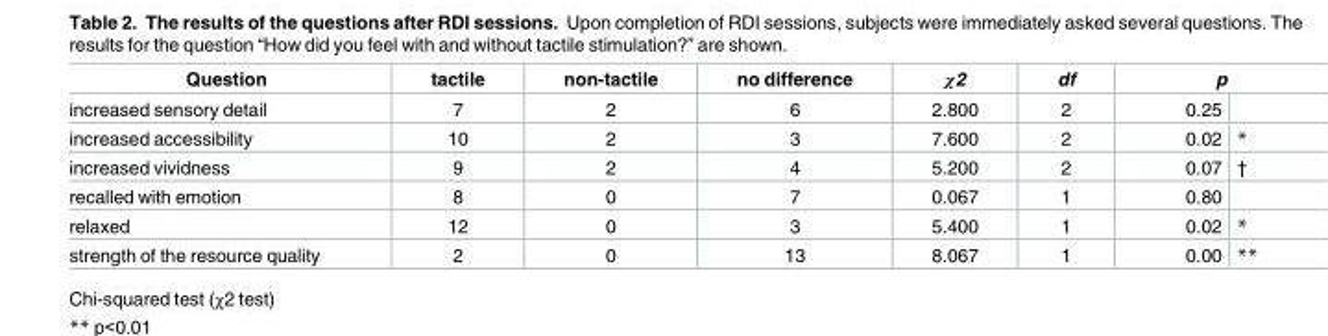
<table><thead><tr><td rowspan="2">Question increased sensory detail</td><td rowspan="2">tactile 7</td><td rowspan="2">non-tactile 2</td><td rowspan="2">no difference 6</td><td rowspan="2">χ2 2.800</td><td rowspan="2">df 2</td><td colspan="2">p</td></tr><tr><td>0.25</td><td></td></tr></thead><tbody><tr><td>increased accessibility</td><td>10</td><td>2</td><td>3</td><td>7.600</td><td>2</td><td>0.02</td><td>*</td></tr><tr><td>increased vividness</td><td>9</td><td>2</td><td>4</td><td>5.200</td><td>2</td><td>0.07</td><td>†</td></tr><tr><td>recalled with emotion</td><td>8</td><td>0</td><td>7</td><td>0.067</td><td>1</td><td>0.80</td><td></td></tr><tr><td>relaxed</td><td>12</td><td>0</td><td>3</td><td>5.400</td><td>1</td><td>0.02</td><td>*</td></tr><tr><td>strength of the resource quality</td><td>2</td><td>0</td><td>13</td><td>8.067</td><td>1</td><td>0.00</td><td>**</td></tr></tbody></table>